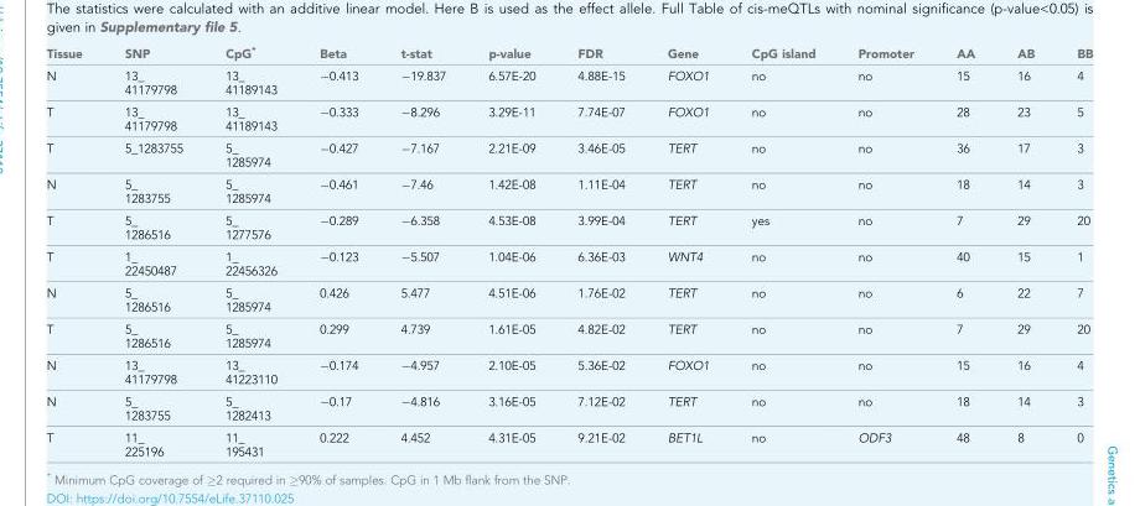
<table><thead><tr><td>Tissue</td><td>SNP</td><td>CpG*</td><td>Beta</td><td>t-stat</td><td>p-value</td><td>FDR</td><td>Gene</td><td>CpG island</td><td>Promoter</td><td>AA</td><td>AB</td><td>BB</td></tr></thead><tbody><tr><td>N</td><td>13_ 41179798</td><td>13_ 41189143</td><td>−0.413</td><td>−19.837</td><td>6.57E-20</td><td>4.88E-15</td><td>FOXO1</td><td>no</td><td>no</td><td>15</td><td>16</td><td>4</td></tr><tr><td>T</td><td>13_ 41179798</td><td>13_ 41189143</td><td>−0.333</td><td>−8.296</td><td>3.29E-11</td><td>7.74E-07</td><td>FOXO1</td><td>no</td><td>no</td><td>28</td><td>23</td><td>5</td></tr><tr><td>T</td><td>5_1283755</td><td>5_ 1285974</td><td>−0.427</td><td>−7.167</td><td>2.21E-09</td><td>3.46E-05</td><td>TERT</td><td>no</td><td>no</td><td>36</td><td>17</td><td>3</td></tr><tr><td>N</td><td>5_ 1283755</td><td>5_ 1285974</td><td>−0.461</td><td>−7.46</td><td>1.42E-08</td><td>1.11E-04</td><td>TERT</td><td>no</td><td>no</td><td>18</td><td>14</td><td>3</td></tr><tr><td>T</td><td>5_ 1286516</td><td>5_ 1277576</td><td>−0.289</td><td>−6.358</td><td>4.53E-08</td><td>3.99E-04</td><td>TERT</td><td>yes</td><td>no</td><td>7</td><td>29</td><td>20</td></tr><tr><td>T</td><td>1_ 22450487</td><td>1_ 22456326</td><td>−0.123</td><td>−5.507</td><td>1.04E-06</td><td>6.36E-03</td><td>WNT4</td><td>no</td><td>no</td><td>40</td><td>15</td><td>1</td></tr><tr><td>N</td><td>5_ 1286516</td><td>5_ 1285974</td><td>0.426</td><td>5.477</td><td>4.51E-06</td><td>1.76E-02</td><td>TERT</td><td>no</td><td>no</td><td>6</td><td>22</td><td>7</td></tr><tr><td>T</td><td>5_ 1286516</td><td>5_ 1285974</td><td>0.299</td><td>4.739</td><td>1.61E-05</td><td>4.82E-02</td><td>TERT</td><td>no</td><td>no</td><td>7</td><td>29</td><td>20</td></tr><tr><td>N</td><td>13_ 41179798</td><td>13_ 41223110</td><td>−0.174</td><td>−4.957</td><td>2.10E-05</td><td>5.36E-02</td><td>FOXO1</td><td>no</td><td>no</td><td>15</td><td>16</td><td>4</td></tr><tr><td>N</td><td>5_ 1283755</td><td>5_ 1282413</td><td>−0.17</td><td>−4.816</td><td>3.16E-05</td><td>7.12E-02</td><td>TERT</td><td>no</td><td>no</td><td>18</td><td>14</td><td>3</td></tr><tr><td>T</td><td>11_ 225196</td><td>11_ 195431</td><td>0.222</td><td>4.452</td><td>4.31E-05</td><td>9.21E-02</td><td>BET1L</td><td>no</td><td>ODF3</td><td>48</td><td>8</td><td>0</td></tr></tbody></table>